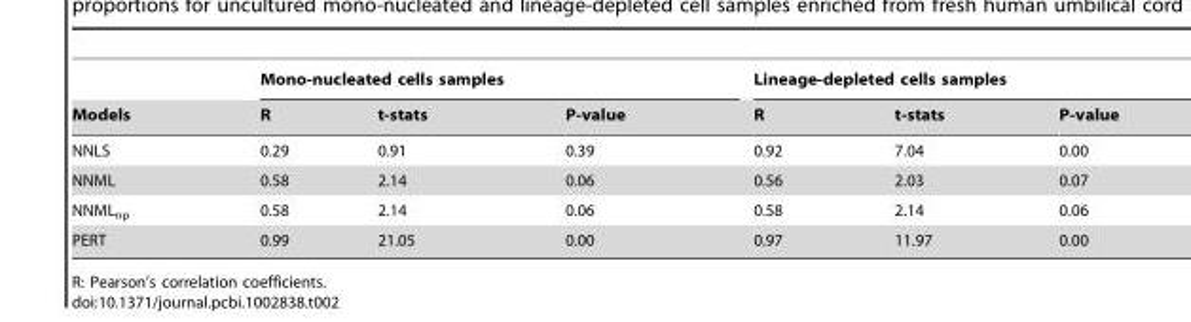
<table><thead><tr><td rowspan="2">Models</td><td colspan="3">Mono-nucleated cells samples</td><td colspan="3">Lineage-depleted cells samples</td></tr><tr><td>R</td><td>t-stats</td><td>P-value</td><td>R</td><td>t-stats</td><td>P-value</td></tr></thead><tbody><tr><td>NNLS</td><td>0.29</td><td>0.91</td><td>0.39</td><td>0.92</td><td>7.04</td><td>0.00</td></tr><tr><td>NNML</td><td>0.58</td><td>2.14</td><td>0.06</td><td>0.56</td><td>2.03</td><td>0.07</td></tr><tr><td>NNML<sub>np</sub></td><td>0.58</td><td>2.14</td><td>0.06</td><td>0.58</td><td>2.14</td><td>0.06</td></tr><tr><td>PERT</td><td>0.99</td><td>21.05</td><td>0.00</td><td>0.97</td><td>11.97</td><td>0.00</td></tr></tbody></table>